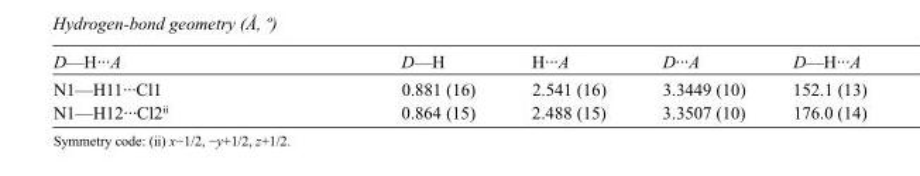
<table><tbody><tr><td>D—H···A</td><td>D—H</td><td>H···A</td><td>D···A</td><td>D—H···A</td></tr><tr><td>N1—H11···Cl1</td><td>0.881 (16)</td><td>2.541 (16)</td><td>3.3449 (10)</td><td>152.1 (13)</td></tr><tr><td>N1—H12···Cl2<sup>ii</sup></td><td>0.864 (15)</td><td>2.488 (15)</td><td>3.3507 (10)</td><td>176.0 (14)</td></tr></tbody></table>